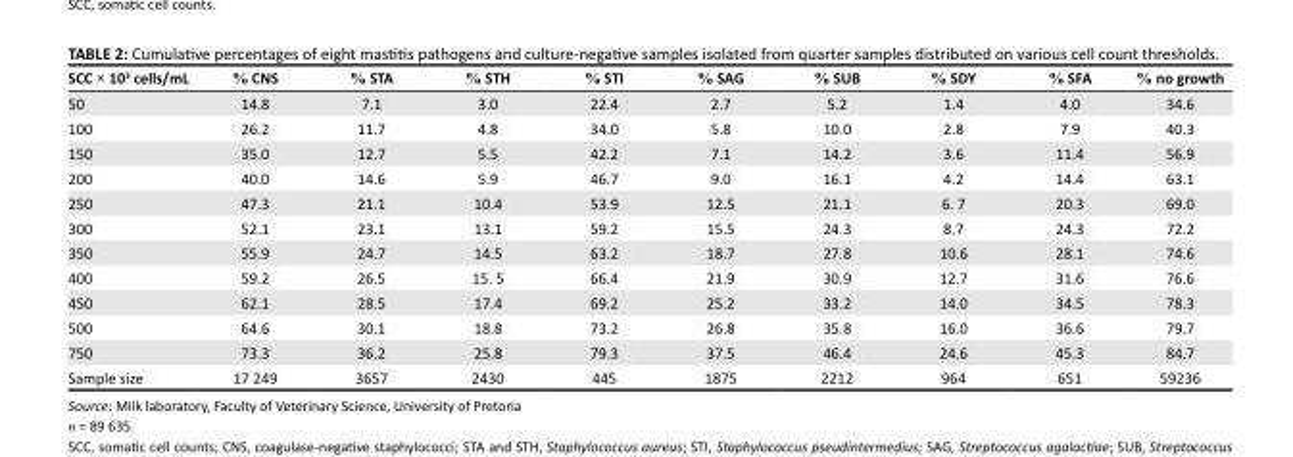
<table><thead><tr><td>SCC × 10<sup>3</sup> cells/mL</td><td>% CNS</td><td>% STA</td><td>% STH</td><td>% STI</td><td>% SAG</td><td>% SUB</td><td>% SDY</td><td>% SFA</td><td>% no growth</td></tr></thead><tbody><tr><td>50</td><td>14.8</td><td>7.1</td><td>3.0</td><td>22.4</td><td>2.7</td><td>5.2</td><td>1.4</td><td>4.0</td><td>34.6</td></tr><tr><td>100</td><td>26.2</td><td>11.7</td><td>4.8</td><td>34.0</td><td>5.8</td><td>10.0</td><td>2.8</td><td>7.9</td><td>40.3</td></tr><tr><td>150</td><td>35.0</td><td>12.7</td><td>5.5</td><td>42.2</td><td>7.1</td><td>14.2</td><td>3.6</td><td>11.4</td><td>56.9</td></tr><tr><td>200</td><td>40.0</td><td>14.6</td><td>5.9</td><td>46.7</td><td>9.0</td><td>16.1</td><td>4.2</td><td>14.4</td><td>63.1</td></tr><tr><td>250</td><td>47.3</td><td>21.1</td><td>10.4</td><td>53.9</td><td>12.5</td><td>21.1</td><td>6. 7</td><td>20.3</td><td>69.0</td></tr><tr><td>300</td><td>52.1</td><td>23.1</td><td>13.1</td><td>59.2</td><td>15.5</td><td>24.3</td><td>8.7</td><td>24.3</td><td>72.2</td></tr><tr><td>350</td><td>55.9</td><td>24.7</td><td>14.5</td><td>63.2</td><td>18.7</td><td>27.8</td><td>10.6</td><td>28.1</td><td>74.6</td></tr><tr><td>400</td><td>59.2</td><td>26.5</td><td>15. 5</td><td>66.4</td><td>21.9</td><td>30.9</td><td>12.7</td><td>31.6</td><td>76.6</td></tr><tr><td>450</td><td>62.1</td><td>28.5</td><td>17.4</td><td>69.2</td><td>25.2</td><td>33.2</td><td>14.0</td><td>34.5</td><td>78.3</td></tr><tr><td>500</td><td>64.6</td><td>30.1</td><td>18.8</td><td>73.2</td><td>26.8</td><td>35.8</td><td>16.0</td><td>36.6</td><td>79.7</td></tr><tr><td>750</td><td>73.3</td><td>36.2</td><td>25.8</td><td>79.3</td><td>37.5</td><td>46.4</td><td>24.6</td><td>45.3</td><td>84.7</td></tr><tr><td>Sample size</td><td>17 249</td><td>3657</td><td>2430</td><td>445</td><td>1875</td><td>2212</td><td>964</td><td>651</td><td>59236</td></tr></tbody></table>